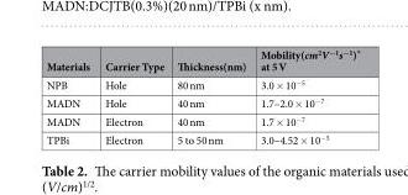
<table><thead><tr><td>Materials</td><td>Carrier Type</td><td>Thickness(nm)</td><td>Mobility(cm<sup>2</sup>V<sup>−1</sup>s<sup>−1</sup>)* at 5 V</td></tr></thead><tbody><tr><td>NPB</td><td>Hole</td><td>80 nm</td><td>3.0 × 10<sup>−5</sup></td></tr><tr><td>MADN</td><td>Hole</td><td>40 nm</td><td>1.7–2.0 × 10<sup>−7</sup></td></tr><tr><td>MADN</td><td>Electron</td><td>40 nm</td><td>1.7 × 10<sup>−7</sup></td></tr><tr><td>TPBi</td><td>Electron</td><td>5 to 50 nm</td><td>3.0–4.52 × 10<sup>−5</sup></td></tr></tbody></table>